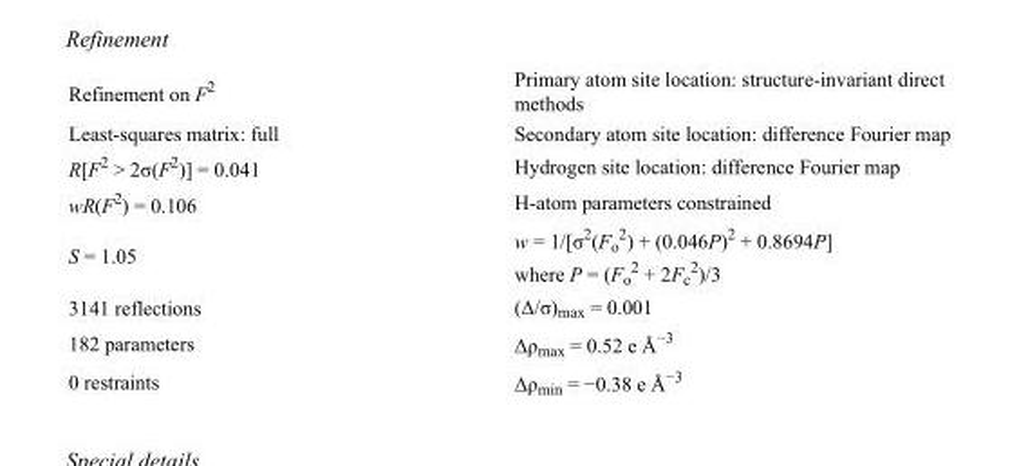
<table><tbody><tr><td>Refinement on F<sup>2</sup></td><td>Primary atom site location: structure-invariant direct methods</td></tr><tr><td>Least-squares matrix: full</td><td>Secondary atom site location: difference Fourier map</td></tr><tr><td>R[F<sup>2</sup> &gt; 2σ(F<sup>2</sup>)] = 0.041</td><td>Hydrogen site location: difference Fourier map</td></tr><tr><td>wR(F<sup>2</sup>) = 0.106</td><td>H-atom parameters constrained</td></tr><tr><td>S = 1.05</td><td>w = 1/[σ<sup>2</sup>(F<sub>o</sub> <sup>2</sup>) + (0.046P)<sup>2</sup> + 0.8694P] where P = (F<sub>o</sub> <sup>2</sup> + 2F<sub>c</sub> <sup>2</sup>)/3</td></tr><tr><td>3141 reflections</td><td>(Δ/σ)<sub>max</sub> = 0.001</td></tr><tr><td>182 parameters</td><td>Δρ<sub>max</sub> = 0.52 e Å<sup>−3</sup></td></tr><tr><td>0 restraints</td><td>Δρ<sub>min</sub> = −0.38 e Å<sup>−3</sup></td></tr></tbody></table>